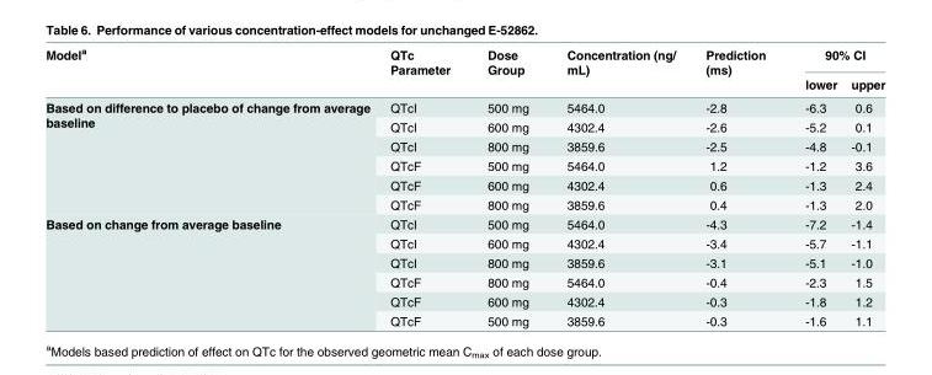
<table><thead><tr><td rowspan="2">Model<sup>a</sup></td><td rowspan="2">QTc Parameter</td><td rowspan="2">Dose Group</td><td rowspan="2">Concentration (ng/ mL)</td><td rowspan="2">Prediction (ms)</td><td colspan="2">90% CI</td></tr><tr><td>lower</td><td>upper</td></tr></thead><tbody><tr><td rowspan="6">Based on difference to placebo of change from average baseline</td><td>QTcI</td><td>500 mg</td><td>5464.0</td><td>-2.8</td><td>-6.3</td><td>0.6</td></tr><tr><td>QTcI</td><td>600 mg</td><td>4302.4</td><td>-2.6</td><td>-5.2</td><td>0.1</td></tr><tr><td>QTcI</td><td>800 mg</td><td>3859.6</td><td>-2.5</td><td>-4.8</td><td>-0.1</td></tr><tr><td>QTcF</td><td>500 mg</td><td>5464.0</td><td>1.2</td><td>-1.2</td><td>3.6</td></tr><tr><td>QTcF</td><td>600 mg</td><td>4302.4</td><td>0.6</td><td>-1.3</td><td>2.4</td></tr><tr><td>QTcF</td><td>800 mg</td><td>3859.6</td><td>0.4</td><td>-1.3</td><td>2.0</td></tr><tr><td rowspan="6">Based on change from average baseline</td><td>QTcI</td><td>500 mg</td><td>5464.0</td><td>-4.3</td><td>-7.2</td><td>-1.4</td></tr><tr><td>QTcI</td><td>600 mg</td><td>4302.4</td><td>-3.4</td><td>-5.7</td><td>-1.1</td></tr><tr><td>QTcI</td><td>800 mg</td><td>3859.6</td><td>-3.1</td><td>-5.1</td><td>-1.0</td></tr><tr><td>QTcF</td><td>800 mg</td><td>5464.0</td><td>-0.4</td><td>-2.3</td><td>1.5</td></tr><tr><td>QTcF</td><td>600 mg</td><td>4302.4</td><td>-0.3</td><td>-1.8</td><td>1.2</td></tr><tr><td>QTcF</td><td>500 mg</td><td>3859.6</td><td>-0.3</td><td>-1.6</td><td>1.1</td></tr></tbody></table>